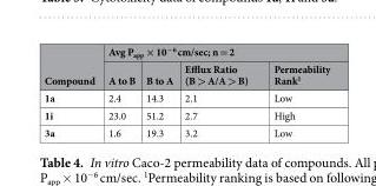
<table><thead><tr><td rowspan="2">Compound</td><td colspan="4">Avg P<sub>app</sub> × 10<sup>−6</sup> cm/sec; n = 2</td></tr><tr><td>A to B</td><td>B to A</td><td>Efflux Ratio (B &gt; A/A &gt; B)</td><td>Permeability Rank<sup>1</sup></td></tr></thead><tbody><tr><td>1a</td><td>2.4</td><td>14.3</td><td>2.1</td><td>Low</td></tr><tr><td>1i</td><td>23.0</td><td>51.2</td><td>2.7</td><td>High</td></tr><tr><td>3a</td><td>1.6</td><td>19.3</td><td>3.2</td><td>Low</td></tr></tbody></table>